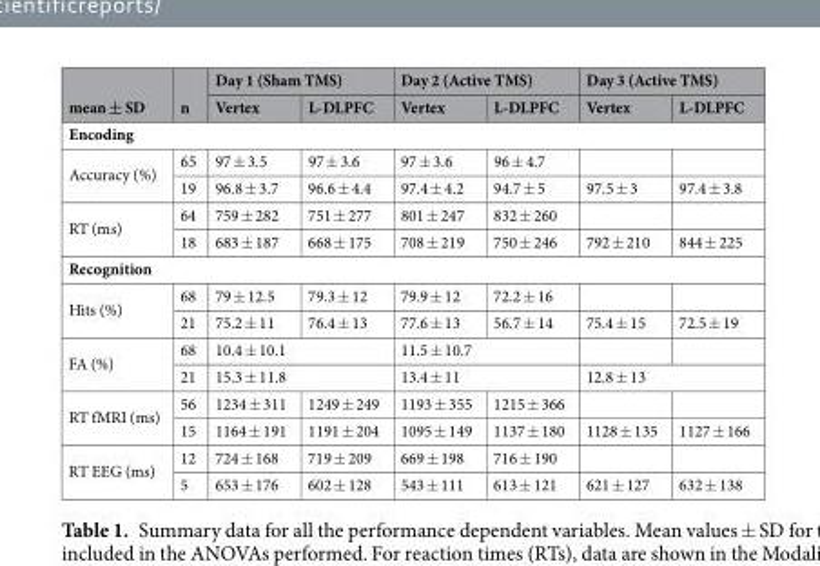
<table><thead><tr><td rowspan="2">mean ± SD</td><td rowspan="2">n</td><td colspan="2">Day 1 (Sham TMS)</td><td colspan="2">Day 2 (Active TMS)</td><td colspan="2">Day 3 (Active TMS)</td></tr><tr><td>Vertex</td><td>L-DLPFC</td><td>Vertex</td><td>L-DLPFC</td><td>Vertex</td><td>L-DLPFC</td></tr></thead><tbody><tr><td colspan="8">Encoding</td></tr><tr><td rowspan="2">Accuracy (%)</td><td>65</td><td>97 ± 3.5</td><td>97 ± 3.6</td><td>97 ± 3.6</td><td>96 ± 4.7</td><td></td><td></td></tr><tr><td>19</td><td>96.8 ± 3.7</td><td>96.6 ± 4.4</td><td>97.4 ± 4.2</td><td>94.7 ± 5</td><td>97.5 ± 3</td><td>97.4 ± 3.8</td></tr><tr><td rowspan="2">RT (ms)</td><td>64</td><td>759 ± 282</td><td>751 ± 277</td><td>801 ± 247</td><td>832 ± 260</td><td></td><td></td></tr><tr><td>18</td><td>683 ± 187</td><td>668 ± 175</td><td>708 ± 219</td><td>750 ± 246</td><td>792 ± 210</td><td>844 ± 225</td></tr><tr><td colspan="8">Recognition</td></tr><tr><td rowspan="2">Hits (%)</td><td>68</td><td>79 ± 12.5</td><td>79.3 ± 12</td><td>79.9 ± 12</td><td>72.2 ± 16</td><td></td><td></td></tr><tr><td>21</td><td>75.2 ± 11</td><td>76.4 ± 13</td><td>77.6 ± 13</td><td>56.7 ± 14</td><td>75.4 ± 15</td><td>72.5 ± 19</td></tr><tr><td rowspan="2">FA (%)</td><td>68</td><td colspan="2">10.4 ± 10.1</td><td colspan="2">11.5 ± 10.7</td><td></td><td></td></tr><tr><td>21</td><td colspan="2">15.3 ± 11.8</td><td colspan="2">13.4 ± 11</td><td colspan="2">12.8 ± 13</td></tr><tr><td rowspan="2">RT fMRI (ms)</td><td>56</td><td>1234 ± 311</td><td>1249 ± 249</td><td>1193 ± 355</td><td>1215 ± 366</td><td></td><td></td></tr><tr><td>15</td><td>1164 ± 191</td><td>1191 ± 204</td><td>1095 ± 149</td><td>1137 ± 180</td><td>1128 ± 135</td><td>1127 ± 166</td></tr><tr><td rowspan="2">RT EEG (ms)</td><td>12</td><td>724 ± 168</td><td>719 ± 209</td><td>669 ± 198</td><td>716 ± 190</td><td></td><td></td></tr><tr><td>5</td><td>653 ± 176</td><td>602 ± 128</td><td>543 ± 111</td><td>613 ± 121</td><td>621 ± 127</td><td>632 ± 138</td></tr></tbody></table>